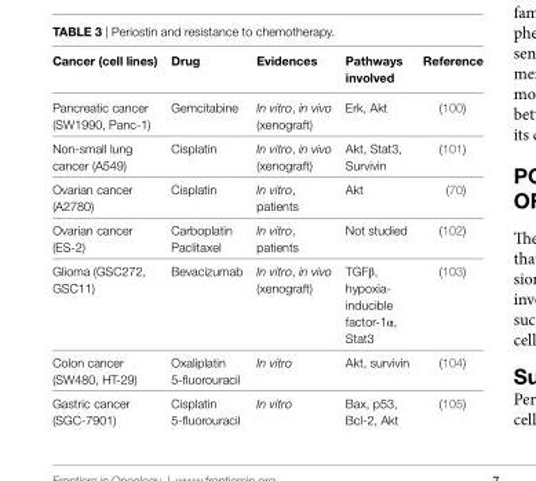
<table><thead><tr><td>Cancer (cell lines)</td><td>Drug</td><td>evidences</td><td>Pathways involved</td><td>Reference</td></tr></thead><tbody><tr><td>Pancreatic cancer (SW1990, Panc-1)</td><td>Gemcitabine</td><td>In vitro, in vivo (xenograft)</td><td>Erk, Akt</td><td>(100)</td></tr><tr><td>Non-small lung cancer (A549)</td><td>Cisplatin</td><td>In vitro, in vivo (xenograft)</td><td>Akt, Stat3, Survivin</td><td>(101)</td></tr><tr><td>Ovarian cancer (A2780)</td><td>Cisplatin</td><td>In vitro, patients</td><td>Akt</td><td>(70)</td></tr><tr><td>Ovarian cancer (ES-2)</td><td>Carboplatin Paclitaxel</td><td>In vitro, patients</td><td>Not studied</td><td>(102)</td></tr><tr><td>Glioma (GSC272, GSC11)</td><td>Bevacizumab</td><td>In vitro, in vivo (xenograft)</td><td>TGFβ, hypoxia- inducible factor-1α, Stat3</td><td>(103)</td></tr><tr><td rowspan="2">Colon cancer (SW480, HT-29)</td><td>Oxaliplatin</td><td rowspan="2">In vitro</td><td rowspan="2">Akt, survivin</td><td rowspan="2">(104)</td></tr><tr><td>5-fluorouracil</td></tr><tr><td rowspan="2">Gastric cancer (SGC-7901)</td><td>Cisplatin</td><td rowspan="2">In vitro</td><td rowspan="2">Bax, p53, Bcl-2, Akt</td><td rowspan="2">(105)</td></tr><tr><td>5-fluorouracil</td></tr></tbody></table>